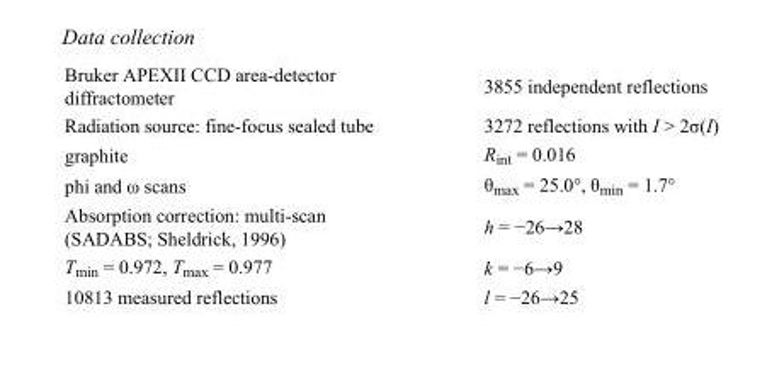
<table><tbody><tr><td>Bruker APEXII CCD area-detector diffractometer</td><td>3855 independent reflections</td></tr><tr><td>Radiation source: fine-focus sealed tube</td><td>3272 reflections with I &gt; 2σ(I)</td></tr><tr><td>graphite</td><td>R<sub>int</sub> = 0.016</td></tr><tr><td>phi and ω scans</td><td>θ<sub>max</sub> = 25.0°, θ<sub>min</sub> = 1.7°</td></tr><tr><td>Absorption correction: multi-scan (SADABS; Sheldrick, 1996)</td><td>h = −26→28</td></tr><tr><td>T<sub>min</sub> = 0.972, T<sub>max</sub> = 0.977</td><td>k = −6→9</td></tr><tr><td>10813 measured reflections</td><td>l = −26→25</td></tr></tbody></table>